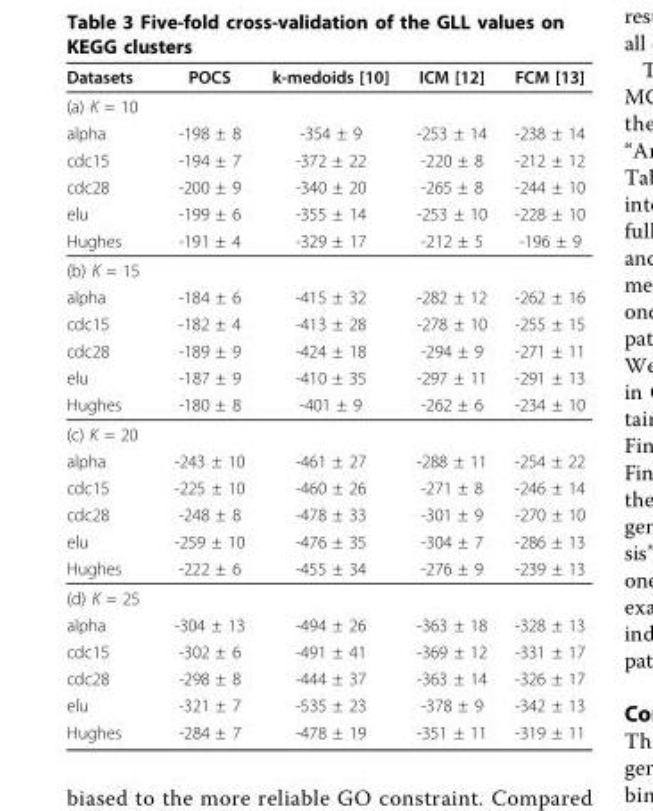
<table><thead><tr><td>Datasets</td><td>POCS</td><td>k-medoids [10]</td><td>ICM [12]</td><td>FCM [13]</td></tr></thead><tbody><tr><td colspan="5">(a) K = 10</td></tr><tr><td>alpha</td><td>-198 ± 8</td><td>-354 ± 9</td><td>-253 ± 14</td><td>-238 ± 14</td></tr><tr><td>cdc15</td><td>-194 ± 7</td><td>-372 ± 22</td><td>-220 ± 8</td><td>-212 ± 12</td></tr><tr><td>cdc28</td><td>-200 ± 9</td><td>-340 ± 20</td><td>-265 ± 8</td><td>-244 ± 10</td></tr><tr><td>elu</td><td>-199 ± 6</td><td>-355 ± 14</td><td>-253 ± 10</td><td>-228 ± 10</td></tr><tr><td>Hughes</td><td>-191 ± 4</td><td>-329 ± 17</td><td>-212 ± 5</td><td>-196 ± 9</td></tr><tr><td colspan="5">(b) K = 15</td></tr><tr><td>alpha</td><td>-184 ± 6</td><td>-415 ± 32</td><td>-282 ± 12</td><td>-262 ± 16</td></tr><tr><td>cdc15</td><td>-182 ± 4</td><td>-413 ± 28</td><td>-278 ± 10</td><td>-255 ± 15</td></tr><tr><td>cdc28</td><td>-189 ± 9</td><td>-424 ± 18</td><td>-294 ± 9</td><td>-271 ± 11</td></tr><tr><td>elu</td><td>-187 ± 9</td><td>-410 ± 35</td><td>-297 ± 11</td><td>-291 ± 13</td></tr><tr><td>Hughes</td><td>-180 ± 8</td><td>-401 ± 9</td><td>-262 ± 6</td><td>-234 ± 10</td></tr><tr><td colspan="5">(c) K = 20</td></tr><tr><td>alpha</td><td>-243 ± 10</td><td>-461 ± 27</td><td>-288 ± 11</td><td>-254 ± 22</td></tr><tr><td>cdc15</td><td>-225 ± 10</td><td>-460 ± 26</td><td>-271 ± 8</td><td>-246 ± 14</td></tr><tr><td>cdc28</td><td>-248 ± 8</td><td>-478 ± 33</td><td>-301 ± 9</td><td>-270 ± 10</td></tr><tr><td>elu</td><td>-259 ± 10</td><td>-476 ± 35</td><td>-304 ± 7</td><td>-286 ± 13</td></tr><tr><td>Hughes</td><td>-222 ± 6</td><td>-455 ± 34</td><td>-276 ± 9</td><td>-239 ± 13</td></tr><tr><td colspan="5">(d) K = 25</td></tr><tr><td>alpha</td><td>-304 ± 13</td><td>-494 ± 26</td><td>-363 ± 18</td><td>-328 ± 13</td></tr><tr><td>cdc15</td><td>-302 ± 6</td><td>-491 ± 41</td><td>-369 ± 12</td><td>-331 ± 17</td></tr><tr><td>cdc28</td><td>-298 ± 8</td><td>-444 ± 37</td><td>-363 ± 14</td><td>-326 ± 17</td></tr><tr><td>elu</td><td>-321 ± 7</td><td>-535 ± 23</td><td>-378 ± 9</td><td>-342 ± 13</td></tr><tr><td>Hughes</td><td>-284 ± 7</td><td>-478 ± 19</td><td>-351 ± 11</td><td>-319 ± 11</td></tr></tbody></table>